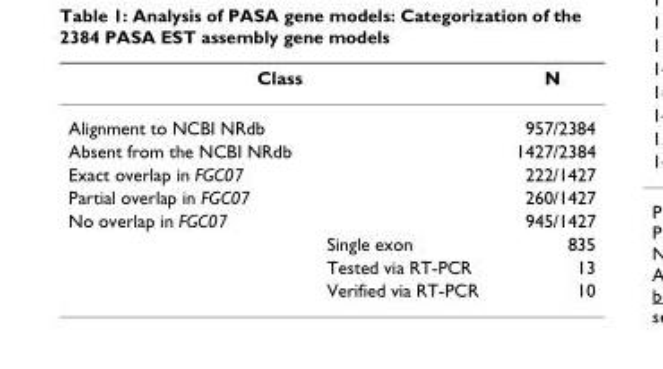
<table><thead><tr><td colspan="2">Class</td><td rowspan="2">N 957/2384</td></tr><tr><td>Alignment to NCBI NRdb</td><td></td></tr></thead><tbody><tr><td>Absent from the NCBI NRdb</td><td></td><td>1427/2384</td></tr><tr><td>Exact overlap in FGC07</td><td></td><td>222/1427</td></tr><tr><td>Partial overlap in FGC07</td><td></td><td>260/1427</td></tr><tr><td rowspan="4">No overlap in FGC07</td><td></td><td>945/1427</td></tr><tr><td>Single exon</td><td>835</td></tr><tr><td>Tested via RT-PCR</td><td>13</td></tr><tr><td>Verified via RT-PCR</td><td>10</td></tr></tbody></table>